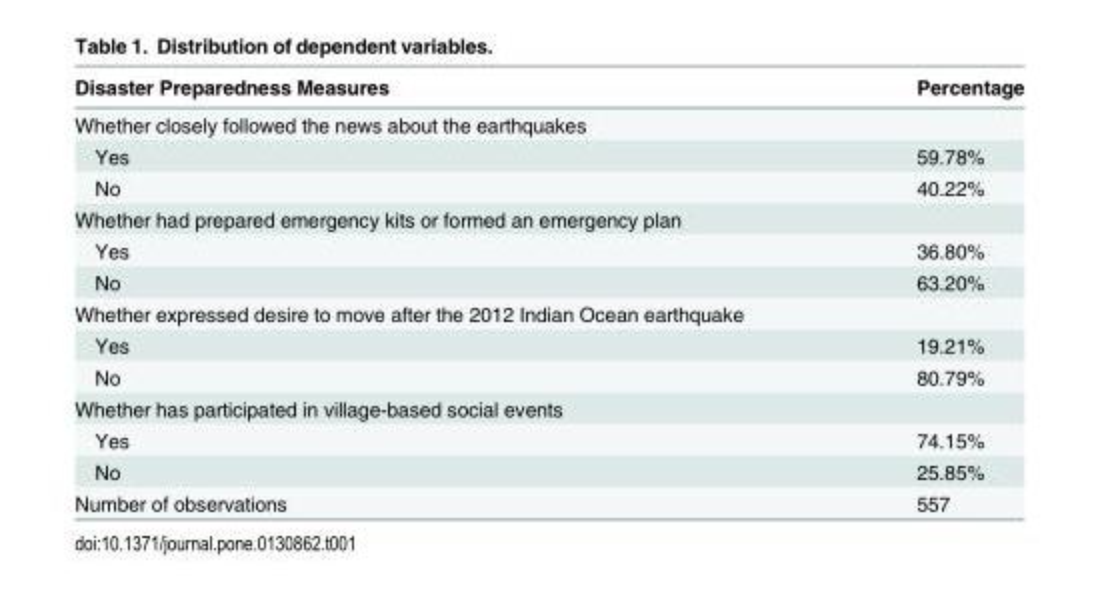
<table><thead><tr><td>Disaster Preparedness Measures</td><td>Percentage</td></tr></thead><tbody><tr><td colspan="2">Whether closely followed the news about the earthquakes</td></tr><tr><td>Yes</td><td>59.78%</td></tr><tr><td>No</td><td>40.22%</td></tr><tr><td colspan="2">Whether had prepared emergency kits or formed an emergency plan</td></tr><tr><td>Yes</td><td>36.80%</td></tr><tr><td>No</td><td>63.20%</td></tr><tr><td colspan="2">Whether expressed desire to move after the 2012 Indian Ocean earthquake</td></tr><tr><td>Yes</td><td>19.21%</td></tr><tr><td>No</td><td>80.79%</td></tr><tr><td colspan="2">Whether has participated in village-based social events</td></tr><tr><td>Yes</td><td>74.15%</td></tr><tr><td>No</td><td>25.85%</td></tr><tr><td>Number of observations</td><td>557</td></tr></tbody></table>